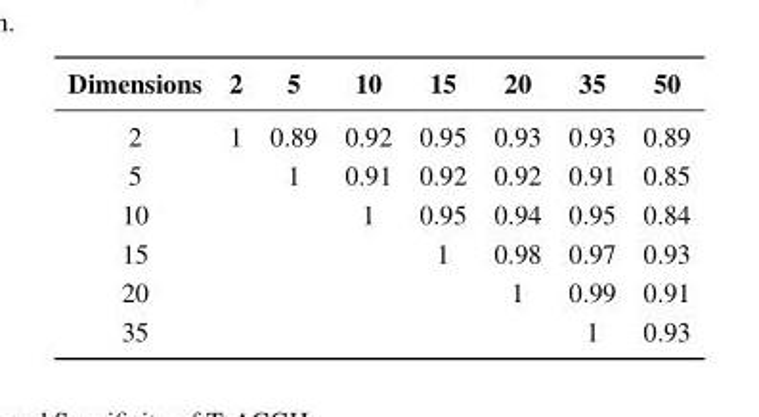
<table><thead><tr><td>Dimensions</td><td>2</td><td>5</td><td>10</td><td>15</td><td>20</td><td>35</td><td>50</td></tr></thead><tbody><tr><td>2</td><td>1</td><td>0.89</td><td>0.92</td><td>0.95</td><td>0.93</td><td>0.93</td><td>0.89</td></tr><tr><td>5</td><td></td><td>1</td><td>0.91</td><td>0.92</td><td>0.92</td><td>0.91</td><td>0.85</td></tr><tr><td>10</td><td></td><td></td><td>1</td><td>0.95</td><td>0.94</td><td>0.95</td><td>0.84</td></tr><tr><td>15</td><td></td><td></td><td></td><td>1</td><td>0.98</td><td>0.97</td><td>0.93</td></tr><tr><td>20</td><td></td><td></td><td></td><td></td><td>1</td><td>0.99</td><td>0.91</td></tr><tr><td>35</td><td></td><td></td><td></td><td></td><td></td><td>1</td><td>0.93</td></tr></tbody></table>